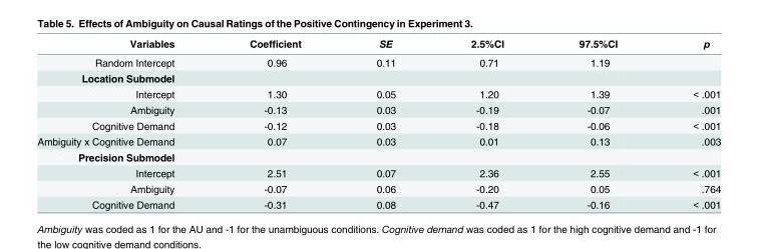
<table><thead><tr><td>Variables</td><td>Coefficient</td><td>SE</td><td>2.5%CI</td><td>97.5%CI</td><td>p</td></tr></thead><tbody><tr><td>Random Intercept</td><td>0.96</td><td>0.11</td><td>0.71</td><td>1.19</td><td></td></tr><tr><td colspan="6">Location Submodel</td></tr><tr><td>Intercept</td><td>1.30</td><td>0.05</td><td>1.20</td><td>1.39</td><td>&lt; .001</td></tr><tr><td>Ambiguity</td><td>-0.13</td><td>0.03</td><td>-0.19</td><td>-0.07</td><td>.001</td></tr><tr><td>Cognitive Demand</td><td>-0.12</td><td>0.03</td><td>-0.18</td><td>-0.06</td><td>&lt; .001</td></tr><tr><td>Ambiguity x Cognitive Demand</td><td>0.07</td><td>0.03</td><td>0.01</td><td>0.13</td><td>.003</td></tr><tr><td colspan="6">Precision Submodel</td></tr><tr><td>Intercept</td><td>2.51</td><td>0.07</td><td>2.36</td><td>2.55</td><td>&lt; .001</td></tr><tr><td>Ambiguity</td><td>-0.07</td><td>0.06</td><td>-0.20</td><td>0.05</td><td>.764</td></tr><tr><td>Cognitive Demand</td><td>-0.31</td><td>0.08</td><td>-0.47</td><td>-0.16</td><td>&lt; .001</td></tr></tbody></table>